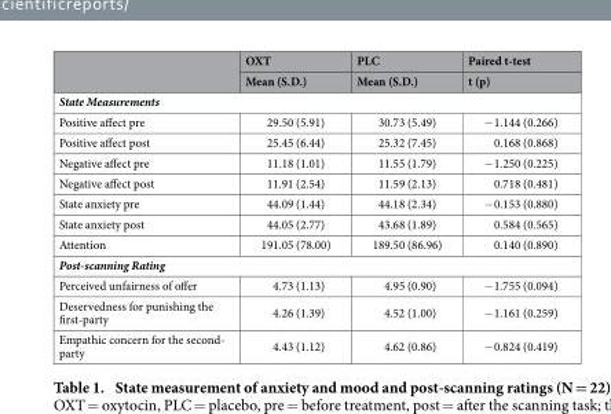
<table><thead><tr><td rowspan="2"></td><td rowspan="2">OXT Mean (S.D.)</td><td rowspan="2">PLC Mean (S.D.)</td><td rowspan="2">Paired t-test t (p)</td></tr><tr></tr></thead><tbody><tr><td colspan="4">State Measurements</td></tr><tr><td>Positive affect pre</td><td>29.50 (5.91)</td><td>30.73 (5.49)</td><td>− 1.144 (0.266)</td></tr><tr><td>Positive affect post</td><td>25.45 (6.44)</td><td>25.32 (7.45)</td><td>0.168 (0.868)</td></tr><tr><td>Negative affect pre</td><td>11.18 (1.01)</td><td>11.55 (1.79)</td><td>− 1.250 (0.225)</td></tr><tr><td>Negative affect post</td><td>11.91 (2.54)</td><td>11.59 (2.13)</td><td>0.718 (0.481)</td></tr><tr><td>State anxiety pre</td><td>44.09 (1.44)</td><td>44.18 (2.34)</td><td>− 0.153 (0.880)</td></tr><tr><td>State anxiety post</td><td>44.05 (2.77)</td><td>43.68 (1.89)</td><td>0.584 (0.565)</td></tr><tr><td>Attention</td><td>191.05 (78.00)</td><td>189.50 (86.96)</td><td>0.140 (0.890)</td></tr><tr><td colspan="4">Post-scanning Rating</td></tr><tr><td>Perceived unfairness of offer</td><td>4.73 (1.13)</td><td>4.95 (0.90)</td><td>− 1.755 (0.094)</td></tr><tr><td>Deservedness for punishing the first-party</td><td>4.26 (1.39)</td><td>4.52 (1.00)</td><td>− 1.161 (0.259)</td></tr><tr><td>Empathic concern for the second- party</td><td>4.43 (1.12)</td><td>4.62 (0.86)</td><td>− 0.824 (0.419)</td></tr></tbody></table>